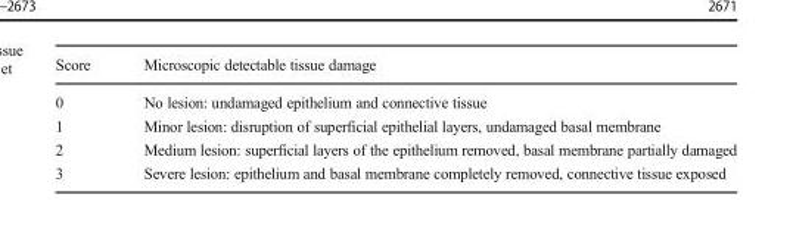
<table><thead><tr><td>Score</td><td>Microscopic detectable tissue damage</td></tr></thead><tbody><tr><td>0</td><td>No lesion: undamaged epithelium and connective tissue</td></tr><tr><td>1</td><td>Minor lesion: disruption of superficial epithelial layers, undamaged basal membrane</td></tr><tr><td>2</td><td>Medium lesion: superficial layers of the epithelium removed, basal membrane partially damaged</td></tr><tr><td>3</td><td>Severe lesion: epithelium and basal membrane completely removed, connective tissue exposed</td></tr></tbody></table>